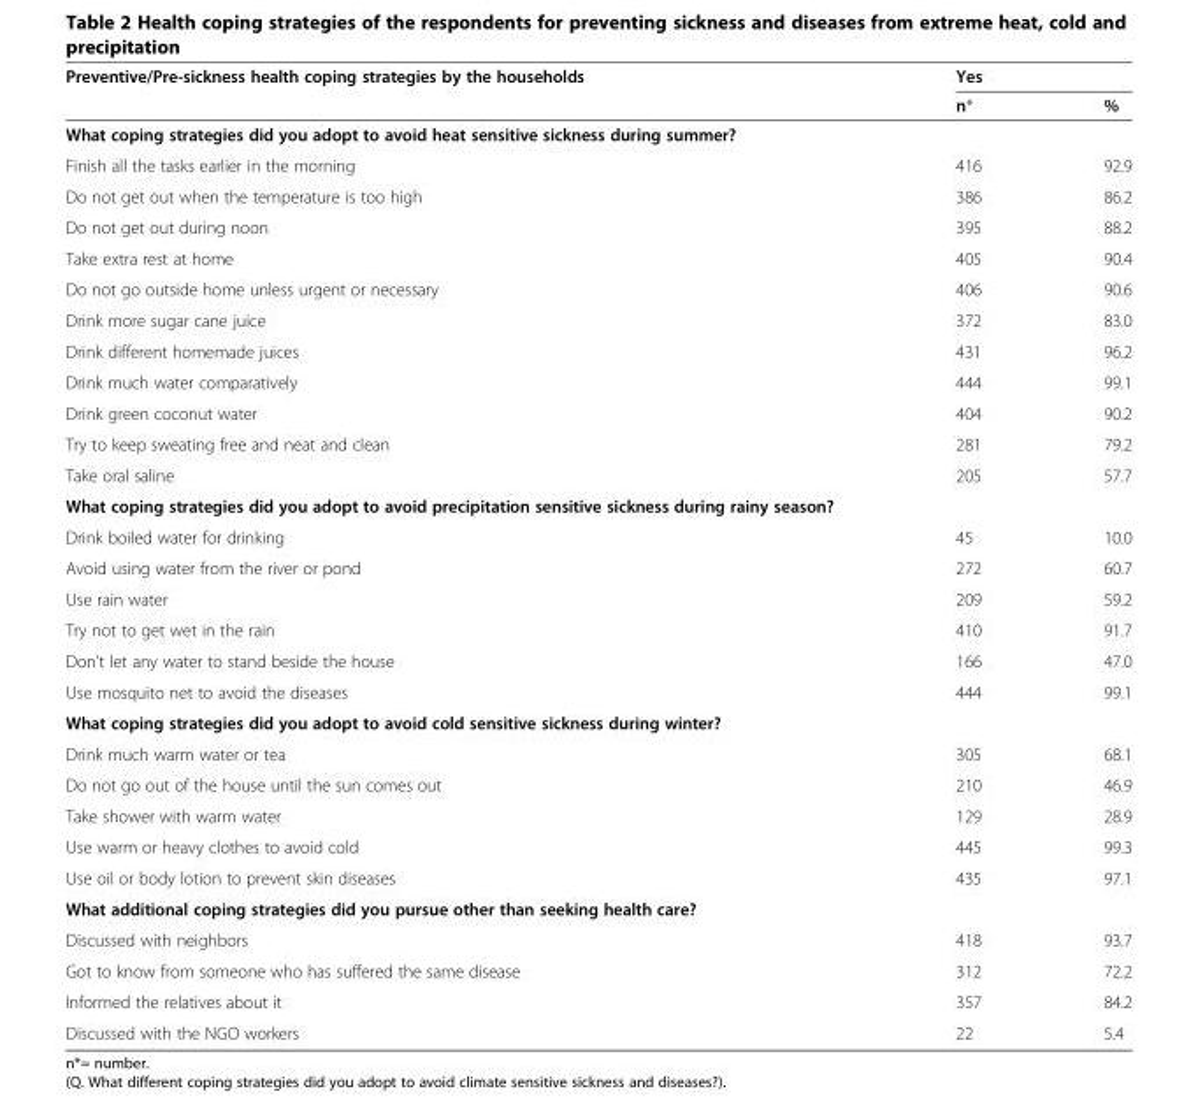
<table><thead><tr><td rowspan="2">Preventive/Pre-sickness health coping strategies by the households</td><td colspan="2">Yes</td></tr><tr><td>n*</td><td>%</td></tr></thead><tbody><tr><td colspan="3">What coping strategies did you adopt to avoid heat sensitive sickness during summer?</td></tr><tr><td>Finish all the tasks earlier in the morning</td><td>416</td><td>92.9</td></tr><tr><td>Do not get out when the temperature is too high</td><td>386</td><td>86.2</td></tr><tr><td>Do not get out during noon</td><td>395</td><td>88.2</td></tr><tr><td>Take extra rest at home</td><td>405</td><td>90.4</td></tr><tr><td>Do not go outside home unless urgent or necessary</td><td>406</td><td>90.6</td></tr><tr><td>Drink more sugar cane juice</td><td>372</td><td>83.0</td></tr><tr><td>Drink different homemade juices</td><td>431</td><td>96.2</td></tr><tr><td>Drink much water comparatively</td><td>444</td><td>99.1</td></tr><tr><td>Drink green coconut water</td><td>404</td><td>90.2</td></tr><tr><td>Try to keep sweating free and neat and clean</td><td>281</td><td>79.2</td></tr><tr><td>Take oral saline</td><td>205</td><td>57.7</td></tr><tr><td colspan="3">What coping strategies did you adopt to avoid precipitation sensitive sickness during rainy season?</td></tr><tr><td>Drink boiled water for drinking</td><td>45</td><td>10.0</td></tr><tr><td>Avoid using water from the river or pond</td><td>272</td><td>60.7</td></tr><tr><td>Use rain water</td><td>209</td><td>59.2</td></tr><tr><td>Try not to get wet in the rain</td><td>410</td><td>91.7</td></tr><tr><td>Don&#x27;t let any water to stand beside the house</td><td>166</td><td>47.0</td></tr><tr><td>Use mosquito net to avoid the diseases</td><td>444</td><td>99.1</td></tr><tr><td colspan="3">What coping strategies did you adopt to avoid cold sensitive sickness during winter?</td></tr><tr><td>Drink much warm water or tea</td><td>305</td><td>68.1</td></tr><tr><td>Do not go out of the house until the sun comes out</td><td>210</td><td>46.9</td></tr><tr><td>Take shower with warm water</td><td>129</td><td>28.9</td></tr><tr><td>Use warm or heavy clothes to avoid cold</td><td>445</td><td>99.3</td></tr><tr><td>Use oil or body lotion to prevent skin diseases</td><td>435</td><td>97.1</td></tr><tr><td colspan="3">What additional coping strategies did you pursue other than seeking health care?</td></tr><tr><td>Discussed with neighbors</td><td>418</td><td>93.7</td></tr><tr><td>Got to know from someone who has suffered the same disease</td><td>312</td><td>72.2</td></tr><tr><td>Informed the relatives about it</td><td>357</td><td>84.2</td></tr><tr><td>Discussed with the NGO workers</td><td>22</td><td>5.4</td></tr></tbody></table>